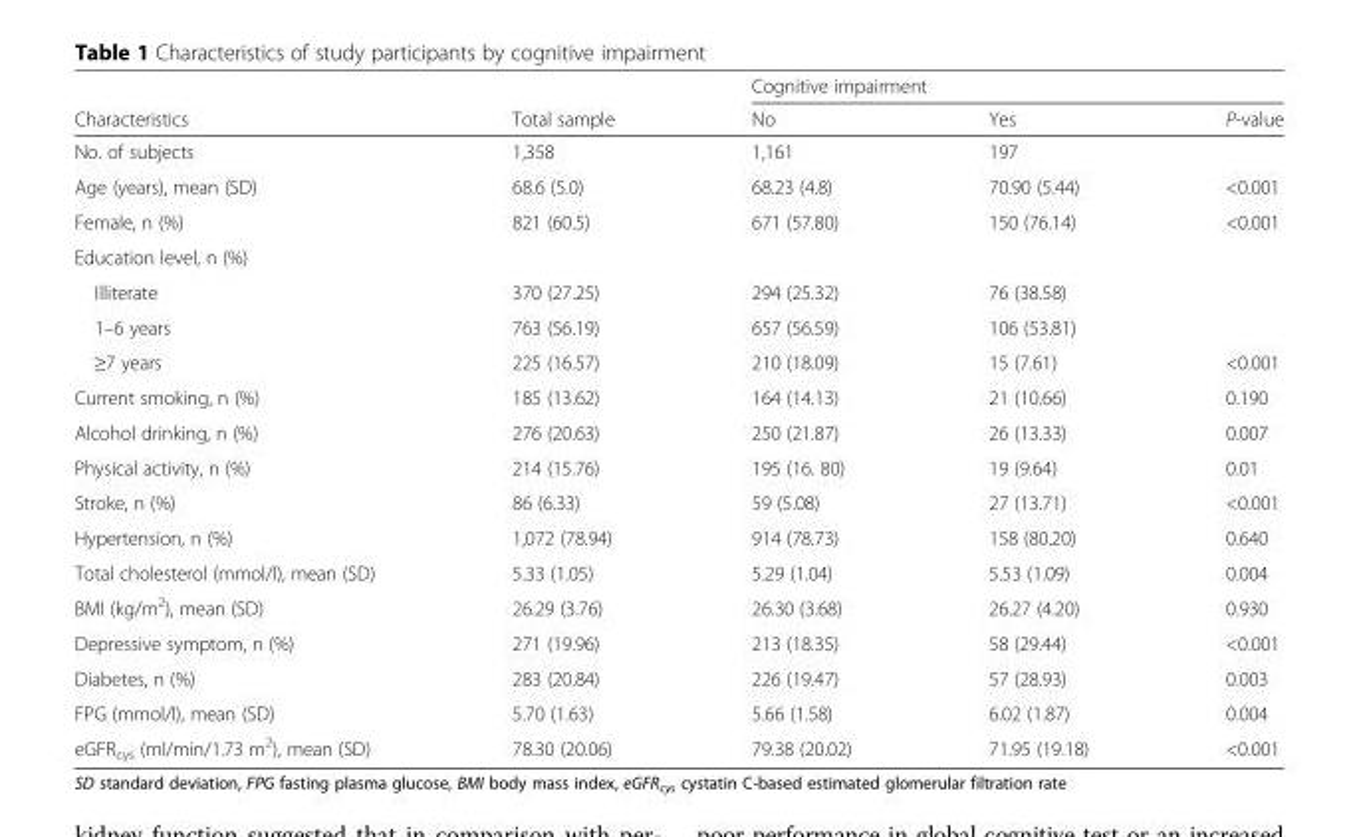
<table><thead><tr><td rowspan="2">Characteristics</td><td rowspan="2">Total sample</td><td colspan="3">Cognitive impairment</td></tr><tr><td>No</td><td>Yes</td><td>P-value</td></tr></thead><tbody><tr><td>No. of subjects</td><td>1,358</td><td>1,161</td><td>197</td><td></td></tr><tr><td>Age (years), mean (SD)</td><td>68.6 (5.0)</td><td>68.23 (4.8)</td><td>70.90 (5.44)</td><td>&lt;0.001</td></tr><tr><td>Female, n (%)</td><td>821 (60.5)</td><td>671 (57.80)</td><td>150 (76.14)</td><td>&lt;0.001</td></tr><tr><td colspan="5">Education level, n (%)</td></tr><tr><td>Illiterate</td><td>370 (27.25)</td><td>294 (25.32)</td><td>76 (38.58)</td><td></td></tr><tr><td>1–6 years</td><td>763 (56.19)</td><td>657 (56.59)</td><td>106 (53.81)</td><td></td></tr><tr><td>≥7 years</td><td>225 (16.57)</td><td>210 (18.09)</td><td>15 (7.61)</td><td>&lt;0.001</td></tr><tr><td>Current smoking, n (%)</td><td>185 (13.62)</td><td>164 (14.13)</td><td>21 (10.66)</td><td>0.190</td></tr><tr><td>Alcohol drinking, n (%)</td><td>276 (20.63)</td><td>250 (21.87)</td><td>26 (13.33)</td><td>0.007</td></tr><tr><td>Physical activity, n (%)</td><td>214 (15.76)</td><td>195 (16. 80)</td><td>19 (9.64)</td><td>0.01</td></tr><tr><td>Stroke, n (%)</td><td>86 (6.33)</td><td>59 (5.08)</td><td>27 (13.71)</td><td>&lt;0.001</td></tr><tr><td>Hypertension, n (%)</td><td>1,072 (78.94)</td><td>914 (78.73)</td><td>158 (80.20)</td><td>0.640</td></tr><tr><td>Total cholesterol (mmol/l), mean (SD)</td><td>5.33 (1.05)</td><td>5.29 (1.04)</td><td>5.53 (1.09)</td><td>0.004</td></tr><tr><td>BMI (kg/m<sup>2</sup>), mean (SD)</td><td>26.29 (3.76)</td><td>26.30 (3.68)</td><td>26.27 (4.20)</td><td>0.930</td></tr><tr><td>Depressive symptom, n (%)</td><td>271 (19.96)</td><td>213 (18.35)</td><td>58 (29.44)</td><td>&lt;0.001</td></tr><tr><td>Diabetes, n (%)</td><td>283 (20.84)</td><td>226 (19.47)</td><td>57 (28.93)</td><td>0.003</td></tr><tr><td>FPG (mmol/l), mean (SD)</td><td>5.70 (1.63)</td><td>5.66 (1.58)</td><td>6.02 (1.87)</td><td>0.004</td></tr><tr><td>eGFR<sub>cys</sub> (ml/min/1.73 m<sup>2</sup>), mean (SD)</td><td>78.30 (20.06)</td><td>79.38 (20.02)</td><td>71.95 (19.18)</td><td>&lt;0.001</td></tr></tbody></table>